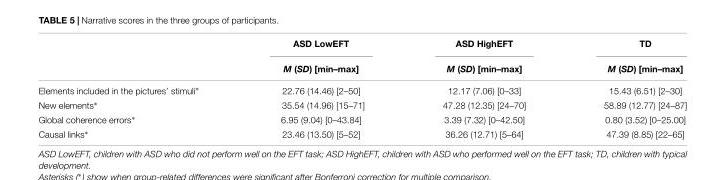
<table><thead><tr><td rowspan="2"></td><td rowspan="2">ASD LowEFT M (SD) [min–max]</td><td rowspan="2">ASD HighEFT M (SD) [min–max]</td><td rowspan="2">TD M (SD) [min–max]</td></tr><tr></tr></thead><tbody><tr><td>Elements included in the pictures’ stimuli∗</td><td>22.76 (14.46) [2–50]</td><td>12.17 (7.06) [0–33]</td><td>15.43 (6.51) [2–30]</td></tr><tr><td>New elements∗</td><td>35.54 (14.96) [15–71]</td><td>47.28 (12.35) [24–70]</td><td>58.89 (12.77) [24–87]</td></tr><tr><td>Global coherence errors∗</td><td>6.95 (9.04) [0–43.84]</td><td>3.39 (7.32) [0–42.50]</td><td>0.80 (3.52) [0–25.00]</td></tr><tr><td>Causal links∗</td><td>23.46 (13.50) [5–52]</td><td>36.26 (12.71) [5–64]</td><td>47.39 (8.85) [22–65]</td></tr></tbody></table>